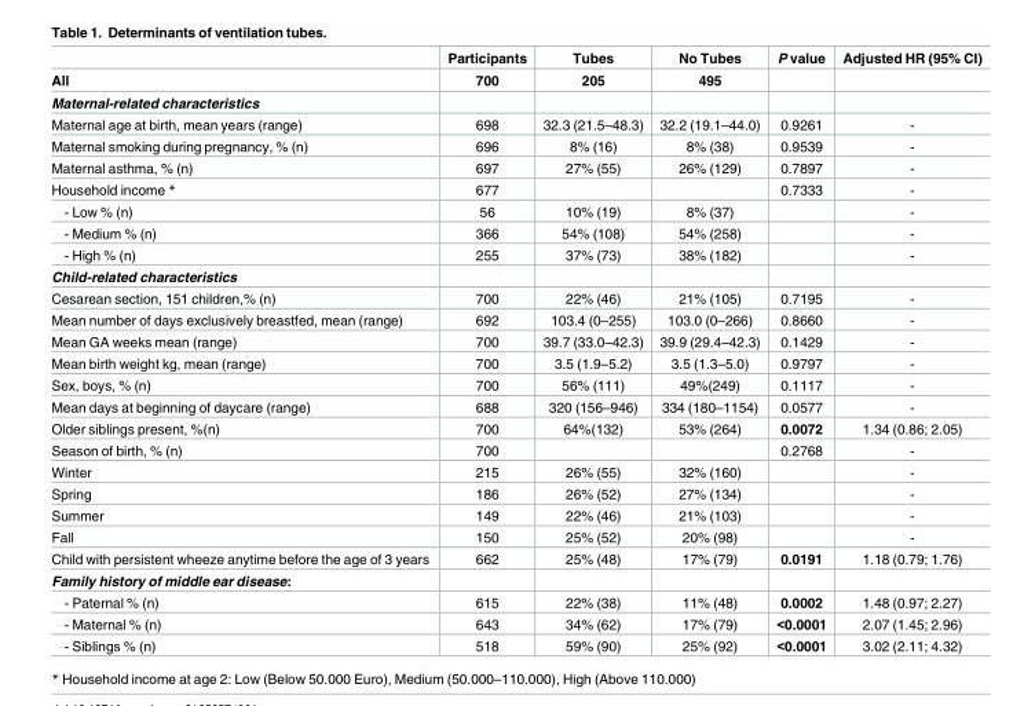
<table><thead><tr><td rowspan="2">All</td><td rowspan="2">Participants 700</td><td rowspan="2">Tubes 205</td><td rowspan="2">No Tubes 495</td><td rowspan="2">P value</td><td rowspan="2">Adjusted HR (95% CI)</td></tr><tr></tr></thead><tbody><tr><td colspan="6">Maternal-related characteristics</td></tr><tr><td>Maternal age at birth, mean years (range)</td><td>698</td><td>32.3 (21.5–48.3)</td><td>32.2 (19.1–44.0)</td><td>0.9261</td><td>-</td></tr><tr><td>Maternal smoking during pregnancy, % (n)</td><td>696</td><td>8% (16)</td><td>8% (38)</td><td>0.9539</td><td>-</td></tr><tr><td>Maternal asthma, % (n)</td><td>697</td><td>27% (55)</td><td>26% (129)</td><td>0.7897</td><td>-</td></tr><tr><td>Household income *</td><td>677</td><td></td><td></td><td>0.7333</td><td>-</td></tr><tr><td>- Low % (n)</td><td>56</td><td>10% (19)</td><td>8% (37)</td><td></td><td>-</td></tr><tr><td>- Medium % (n)</td><td>366</td><td>54% (108)</td><td>54% (258)</td><td></td><td>-</td></tr><tr><td>- High % (n)</td><td>255</td><td>37% (73)</td><td>38% (182)</td><td></td><td>-</td></tr><tr><td colspan="6">Child-related characteristics</td></tr><tr><td>Cesarean section, 151 children,% (n)</td><td>700</td><td>22% (46)</td><td>21% (105)</td><td>0.7195</td><td>-</td></tr><tr><td>Mean number of days exclusively breastfed, mean (range)</td><td>692</td><td>103.4 (0–255)</td><td>103.0 (0–266)</td><td>0.8660</td><td>-</td></tr><tr><td>Mean GA weeks mean (range)</td><td>700</td><td>39.7 (33.0–42.3)</td><td>39.9 (29.4–42.3)</td><td>0.1429</td><td>-</td></tr><tr><td>Mean birth weight kg, mean (range)</td><td>700</td><td>3.5 (1.9–5.2)</td><td>3.5 (1.3–5.0)</td><td>0.9797</td><td>-</td></tr><tr><td>Sex, boys, % (n)</td><td>700</td><td>56% (111)</td><td>49%(249)</td><td>0.1117</td><td>-</td></tr><tr><td>Mean days at beginning of daycare (range)</td><td>688</td><td>320 (156–946)</td><td>334 (180–1154)</td><td>0.0577</td><td>-</td></tr><tr><td>Older siblings present, %(n)</td><td>700</td><td>64%(132)</td><td>53% (264)</td><td>0.0072</td><td>1.34 (0.86; 2.05)</td></tr><tr><td>Season of birth, % (n)</td><td>700</td><td></td><td></td><td>0.2768</td><td>-</td></tr><tr><td>Winter</td><td>215</td><td>26% (55)</td><td>32% (160)</td><td></td><td>-</td></tr><tr><td>Spring</td><td>186</td><td>26% (52)</td><td>27% (134)</td><td></td><td>-</td></tr><tr><td>Summer</td><td>149</td><td>22% (46)</td><td>21% (103)</td><td></td><td>-</td></tr><tr><td>Fall</td><td>150</td><td>25% (52)</td><td>20% (98)</td><td></td><td>-</td></tr><tr><td>Child with persistent wheeze anytime before the age of 3 years</td><td>662</td><td>25% (48)</td><td>17% (79)</td><td>0.0191</td><td>1.18 (0.79; 1.76)</td></tr><tr><td colspan="6">Family history of middle ear disease:</td></tr><tr><td>- Paternal % (n)</td><td>615</td><td>22% (38)</td><td>11% (48)</td><td>0.0002</td><td>1.48 (0.97; 2.27)</td></tr><tr><td>- Maternal % (n)</td><td>643</td><td>34% (62)</td><td>17% (79)</td><td>&lt;0.0001</td><td>2.07 (1.45; 2.96)</td></tr><tr><td>- Siblings % (n)</td><td>518</td><td>59% (90)</td><td>25% (92)</td><td>&lt;0.0001</td><td>3.02 (2.11; 4.32)</td></tr></tbody></table>